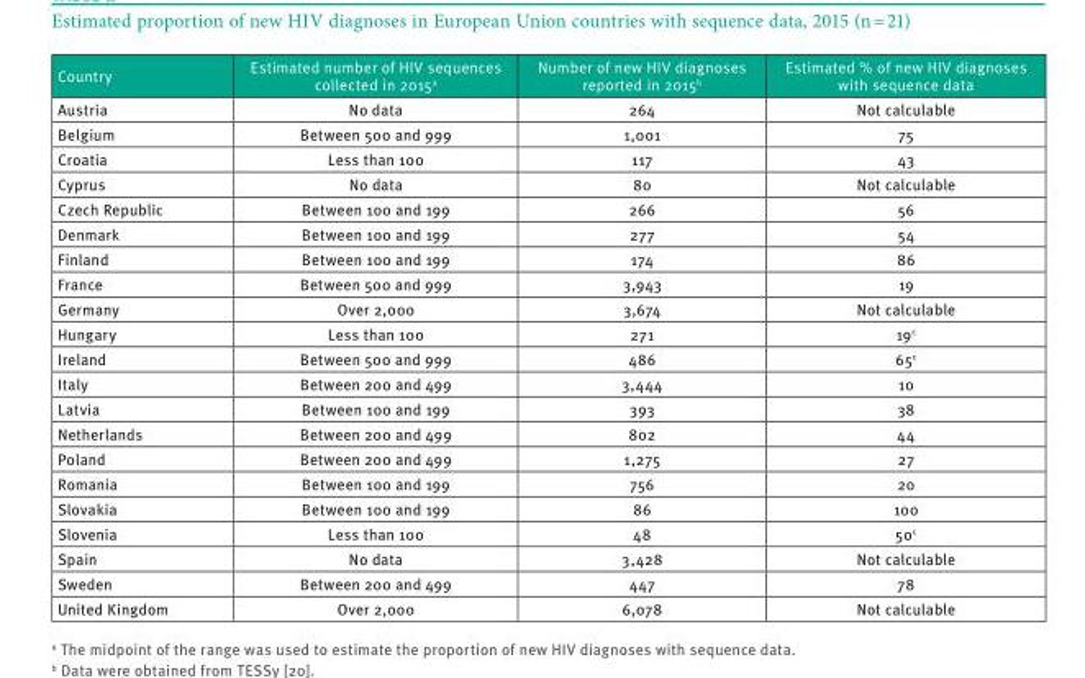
<table><thead><tr><td>Country</td><td>Estimated number of HIV sequences collected in 2015<sup>a</sup></td><td>Number of new HIV diagnoses reported in 2015<sup>b</sup></td><td>Estimated % of new HIV diagnoses with sequence data</td></tr></thead><tbody><tr><td>Austria</td><td>No data</td><td>264</td><td>Not calculable</td></tr><tr><td>Belgium</td><td>Between 500 and 999</td><td>1,001</td><td>75</td></tr><tr><td>Croatia</td><td>Less than 100</td><td>117</td><td>43</td></tr><tr><td>Cyprus</td><td>No data</td><td>80</td><td>Not calculable</td></tr><tr><td>Czech Republic</td><td>Between 100 and 199</td><td>266</td><td>56</td></tr><tr><td>Denmark</td><td>Between 100 and 199</td><td>277</td><td>54</td></tr><tr><td>Finland</td><td>Between 100 and 199</td><td>174</td><td>86</td></tr><tr><td>France</td><td>Between 500 and 999</td><td>3,943</td><td>19</td></tr><tr><td>Germany</td><td>Over 2,000</td><td>3,674</td><td>Not calculable</td></tr><tr><td>Hungary</td><td>Less than 100</td><td>271</td><td>19<sup>c</sup></td></tr><tr><td>Ireland</td><td>Between 500 and 999</td><td>486</td><td>65<sup>c</sup></td></tr><tr><td>Italy</td><td>Between 200 and 499</td><td>3,444</td><td>10</td></tr><tr><td>Latvia</td><td>Between 100 and 199</td><td>393</td><td>38</td></tr><tr><td>Netherlands</td><td>Between 200 and 499</td><td>802</td><td>44</td></tr><tr><td>Poland</td><td>Between 200 and 499</td><td>1,275</td><td>27</td></tr><tr><td>Romania</td><td>Between 100 and 199</td><td>756</td><td>20</td></tr><tr><td>Slovakia</td><td>Between 100 and 199</td><td>86</td><td>100</td></tr><tr><td>Slovenia</td><td>Less than 100</td><td>48</td><td>50<sup>c</sup></td></tr><tr><td>Spain</td><td>No data</td><td>3,428</td><td>Not calculable</td></tr><tr><td>Sweden</td><td>Between 200 and 499</td><td>447</td><td>78</td></tr><tr><td>United Kingdom</td><td>Over 2,000</td><td>6,078</td><td>Not calculable</td></tr></tbody></table>